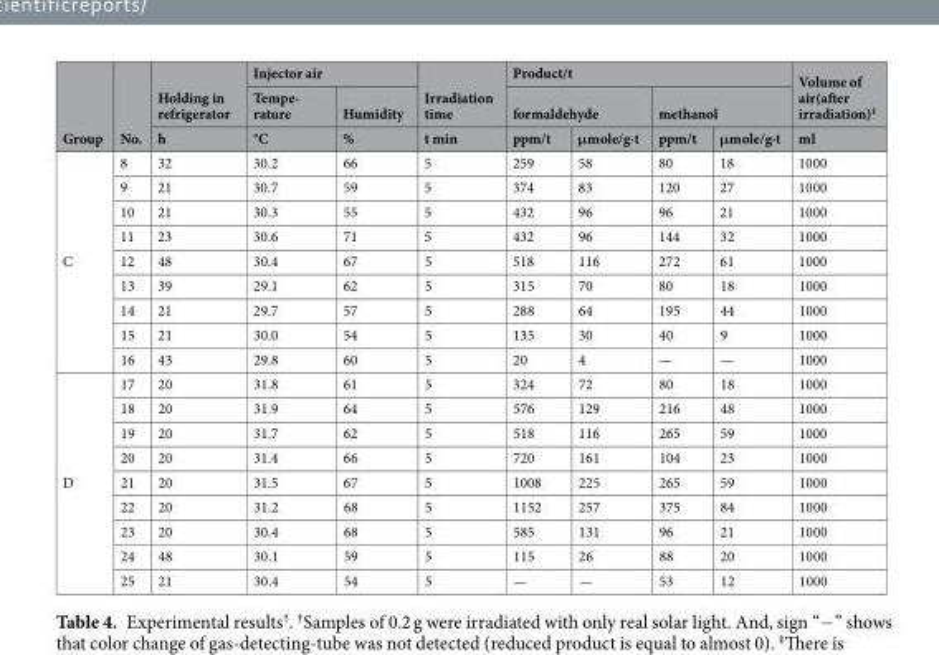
<table><thead><tr><td rowspan="3">Group</td><td rowspan="3">No.</td><td rowspan="3">Holding in refrigerator h</td><td colspan="2">Injector air</td><td rowspan="3">Irradiation time t min</td><td colspan="4">Product/t</td><td rowspan="3">Volume of air(after irradiation)<sup>‡</sup> ml</td></tr><tr><td rowspan="2">Tempe- rature °C</td><td rowspan="2">Humidity %</td><td colspan="2">formaldehyde</td><td colspan="2">methanol</td></tr><tr><td>ppm/t</td><td>μmole/g·t</td><td>ppm/t</td><td>μmole/g·t</td></tr></thead><tbody><tr><td rowspan="9">C</td><td>8</td><td>32</td><td>30.2</td><td>66</td><td>5</td><td>259</td><td>58</td><td>80</td><td>18</td><td>1000</td></tr><tr><td>9</td><td>21</td><td>30.7</td><td>59</td><td>5</td><td>374</td><td>83</td><td>120</td><td>27</td><td>1000</td></tr><tr><td>10</td><td>21</td><td>30.3</td><td>55</td><td>5</td><td>432</td><td>96</td><td>96</td><td>21</td><td>1000</td></tr><tr><td>11</td><td>23</td><td>30.6</td><td>71</td><td>5</td><td>432</td><td>96</td><td>144</td><td>32</td><td>1000</td></tr><tr><td>12</td><td>48</td><td>30.4</td><td>67</td><td>5</td><td>518</td><td>116</td><td>272</td><td>61</td><td>1000</td></tr><tr><td>13</td><td>39</td><td>29.1</td><td>62</td><td>5</td><td>315</td><td>70</td><td>80</td><td>18</td><td>1000</td></tr><tr><td>14</td><td>21</td><td>29.7</td><td>57</td><td>5</td><td>288</td><td>64</td><td>195</td><td>44</td><td>1000</td></tr><tr><td>15</td><td>21</td><td>30.0</td><td>54</td><td>5</td><td>135</td><td>30</td><td>40</td><td>9</td><td>1000</td></tr><tr><td>16</td><td>43</td><td>29.8</td><td>60</td><td>5</td><td>20</td><td>4</td><td>—</td><td>—</td><td>1000</td></tr><tr><td rowspan="9">D</td><td>17</td><td>20</td><td>31.8</td><td>61</td><td>5</td><td>324</td><td>72</td><td>80</td><td>18</td><td>1000</td></tr><tr><td>18</td><td>20</td><td>31.9</td><td>64</td><td>5</td><td>576</td><td>129</td><td>216</td><td>48</td><td>1000</td></tr><tr><td>19</td><td>20</td><td>31.7</td><td>62</td><td>5</td><td>518</td><td>116</td><td>265</td><td>59</td><td>1000</td></tr><tr><td>20</td><td>20</td><td>31.4</td><td>66</td><td>5</td><td>720</td><td>161</td><td>104</td><td>23</td><td>1000</td></tr><tr><td>21</td><td>20</td><td>31.5</td><td>67</td><td>5</td><td>1008</td><td>225</td><td>265</td><td>59</td><td>1000</td></tr><tr><td>22</td><td>20</td><td>31.2</td><td>68</td><td>5</td><td>1152</td><td>257</td><td>375</td><td>84</td><td>1000</td></tr><tr><td>23</td><td>20</td><td>30.4</td><td>68</td><td>5</td><td>585</td><td>131</td><td>96</td><td>21</td><td>1000</td></tr><tr><td>24</td><td>48</td><td>30.1</td><td>59</td><td>5</td><td>115</td><td>26</td><td>88</td><td>20</td><td>1000</td></tr><tr><td>25</td><td>21</td><td>30.4</td><td>54</td><td>5</td><td>—</td><td>—</td><td>53</td><td>12</td><td>1000</td></tr></tbody></table>